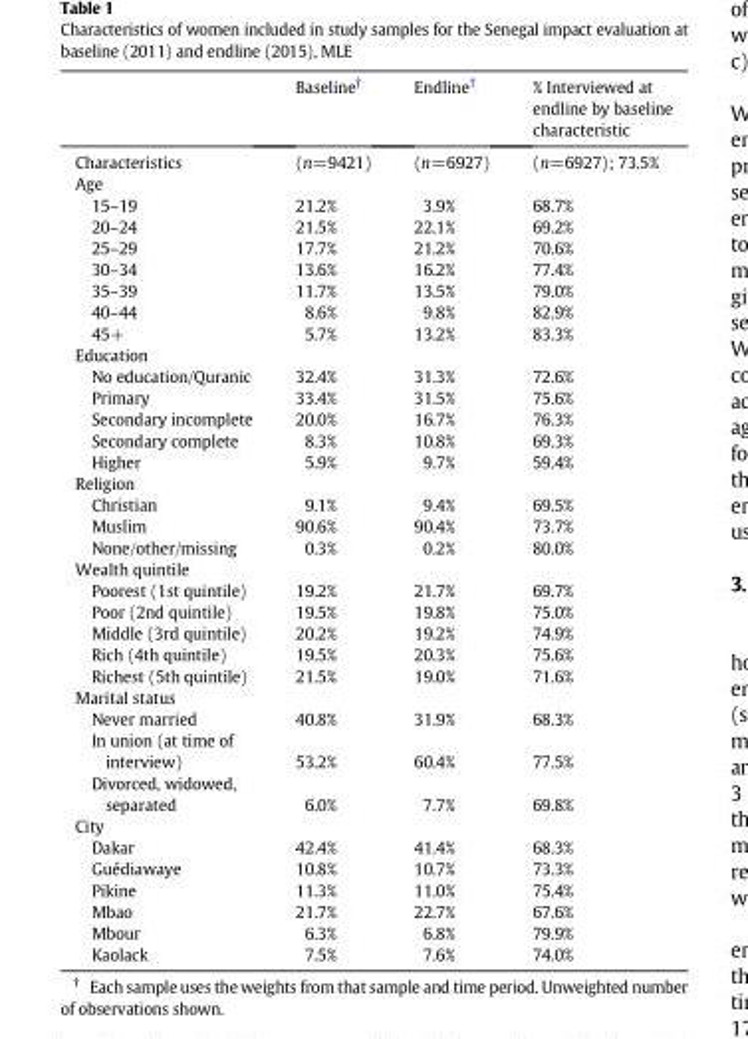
<table><thead><tr><td></td><td>Baseline†</td><td>Endline†</td><td>% Interviewed at endline by baseline characteristic</td></tr></thead><tbody><tr><td>Characteristics</td><td>(n=9421)</td><td>(n=6927)</td><td>(n=6927); 73.5%</td></tr><tr><td colspan="4">Age</td></tr><tr><td>15–19</td><td>21.2%</td><td>3.9%</td><td>68.7%</td></tr><tr><td>20–24</td><td>21.5%</td><td>22.1%</td><td>69.2%</td></tr><tr><td>25–29</td><td>17.7%</td><td>21.2%</td><td>70.6%</td></tr><tr><td>30–34</td><td>13.6%</td><td>16.2%</td><td>77.4%</td></tr><tr><td>35–39</td><td>11.7%</td><td>13.5%</td><td>79.0%</td></tr><tr><td>40–44</td><td>8.6%</td><td>9.8%</td><td>82.9%</td></tr><tr><td>45+</td><td>5.7%</td><td>13.2%</td><td>83.3%</td></tr><tr><td colspan="4">Education</td></tr><tr><td>No education/Quranic</td><td>32.4%</td><td>31.3%</td><td>72.6%</td></tr><tr><td>Primary</td><td>33.4%</td><td>31.5%</td><td>75.6%</td></tr><tr><td>Secondary incomplete</td><td>20.0%</td><td>16.7%</td><td>76.3%</td></tr><tr><td>Secondary complete</td><td>8.3%</td><td>10.8%</td><td>69.3%</td></tr><tr><td>Higher</td><td>5.9%</td><td>9.7%</td><td>59.4%</td></tr><tr><td colspan="4">Religion</td></tr><tr><td>Christian</td><td>9.1%</td><td>9.4%</td><td>69.5%</td></tr><tr><td>Muslim</td><td>90.6%</td><td>90.4%</td><td>73.7%</td></tr><tr><td>None/other/missing</td><td>0.3%</td><td>0.2%</td><td>80.0%</td></tr><tr><td colspan="4">Wealth quintile</td></tr><tr><td>Poorest (1st quintile)</td><td>19.2%</td><td>21.7%</td><td>69.7%</td></tr><tr><td>Poor (2nd quintile)</td><td>19.5%</td><td>19.8%</td><td>75.0%</td></tr><tr><td>Middle (3rd quintile)</td><td>20.2%</td><td>19.2%</td><td>74.9%</td></tr><tr><td>Rich (4th quintile)</td><td>19.5%</td><td>20.3%</td><td>75.6%</td></tr><tr><td>Richest (5th quintile)</td><td>21.5%</td><td>19.0%</td><td>71.6%</td></tr><tr><td colspan="4">Marital status</td></tr><tr><td>Never married</td><td>40.8%</td><td>31.9%</td><td>68.3%</td></tr><tr><td>In union (at time of interview)</td><td>53.2%</td><td>60.4%</td><td>77.5%</td></tr><tr><td>Divorced, widowed, separated</td><td>6.0%</td><td>7.7%</td><td>69.8%</td></tr><tr><td colspan="4">City</td></tr><tr><td>Dakar</td><td>42.4%</td><td>41.4%</td><td>68.3%</td></tr><tr><td>Guédiawaye</td><td>10.8%</td><td>10.7%</td><td>73.3%</td></tr><tr><td>Pikine</td><td>11.3%</td><td>11.0%</td><td>75.4%</td></tr><tr><td>Mbao</td><td>21.7%</td><td>22.7%</td><td>67.6%</td></tr><tr><td>Mbour</td><td>6.3%</td><td>6.8%</td><td>79.9%</td></tr><tr><td>Kaolack</td><td>7.5%</td><td>7.6%</td><td>74.0%</td></tr></tbody></table>